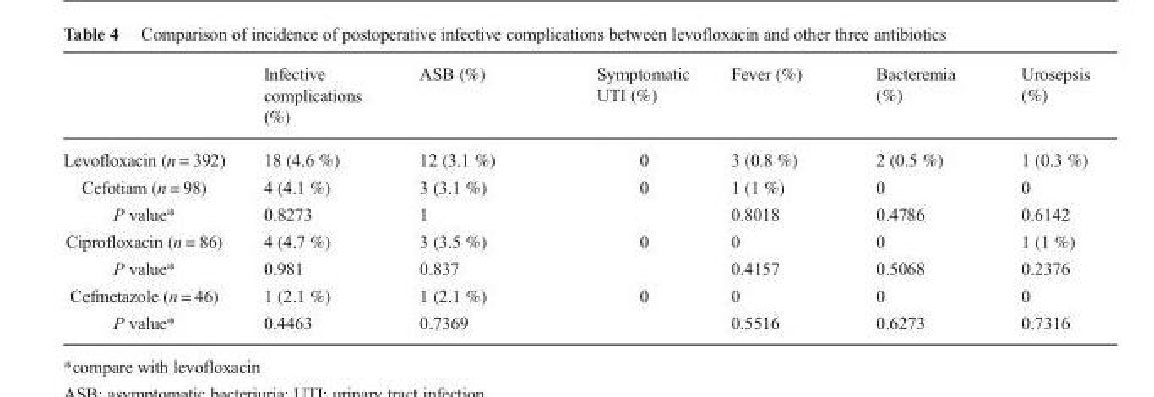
<table><thead><tr><td></td><td>Infective complications (%)</td><td>ASB (%)</td><td>Symptomatic UTI (%)</td><td>Fever (%)</td><td>Bacteremia (%)</td><td>Urosepsis (%)</td></tr></thead><tbody><tr><td>Levofloxacin (n = 392)</td><td>18 (4.6 %)</td><td>12 (3.1 %)</td><td>0</td><td>3 (0.8 %)</td><td>2 (0.5 %)</td><td>1 (0.3 %)</td></tr><tr><td>Cefotiam (n = 98)</td><td>4 (4.1 %)</td><td>3 (3.1 %)</td><td>0</td><td>1 (1 %)</td><td>0</td><td>0</td></tr><tr><td>P value*</td><td>0.8273</td><td>1</td><td></td><td>0.8018</td><td>0.4786</td><td>0.6142</td></tr><tr><td>Ciprofloxacin (n = 86)</td><td>4 (4.7 %)</td><td>3 (3.5 %)</td><td>0</td><td>0</td><td>0</td><td>1 (1 %)</td></tr><tr><td>P value*</td><td>0.981</td><td>0.837</td><td></td><td>0.4157</td><td>0.5068</td><td>0.2376</td></tr><tr><td>Cefmetazole (n = 46)</td><td>1 (2.1 %)</td><td>1 (2.1 %)</td><td>0</td><td>0</td><td>0</td><td>0</td></tr><tr><td>P value*</td><td>0.4463</td><td>0.7369</td><td></td><td>0.5516</td><td>0.6273</td><td>0.7316</td></tr></tbody></table>